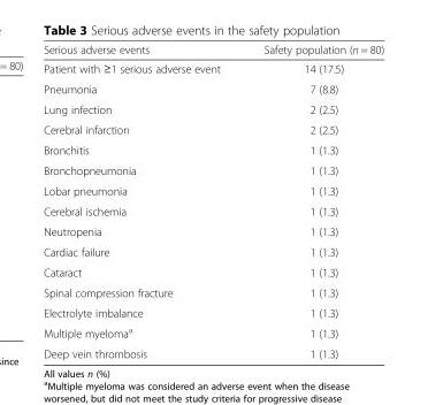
<table><thead><tr><td>Serious adverse events</td><td>Safety population (n = 80)</td></tr></thead><tbody><tr><td>Patient with ≥1 serious adverse event</td><td>14 (17.5)</td></tr><tr><td>Pneumonia</td><td>7 (8.8)</td></tr><tr><td>Lung infection</td><td>2 (2.5)</td></tr><tr><td>Cerebral infarction</td><td>2 (2.5)</td></tr><tr><td>Bronchitis</td><td>1 (1.3)</td></tr><tr><td>Bronchopneumonia</td><td>1 (1.3)</td></tr><tr><td>Lobar pneumonia</td><td>1 (1.3)</td></tr><tr><td>Cerebral ischemia</td><td>1 (1.3)</td></tr><tr><td>Neutropenia</td><td>1 (1.3)</td></tr><tr><td>Cardiac failure</td><td>1 (1.3)</td></tr><tr><td>Cataract</td><td>1 (1.3)</td></tr><tr><td>Spinal compression fracture</td><td>1 (1.3)</td></tr><tr><td>Electrolyte imbalance</td><td>1 (1.3)</td></tr><tr><td>Multiple myeloma<sup>a</sup></td><td>1 (1.3)</td></tr><tr><td>Deep vein thrombosis</td><td>1 (1.3)</td></tr></tbody></table>